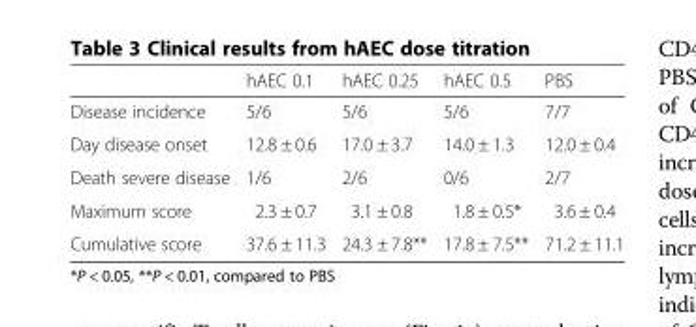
<table><thead><tr><td></td><td>hAEC 0.1</td><td>hAEC 0.25</td><td>hAEC 0.5</td><td>PBS</td></tr></thead><tbody><tr><td>Disease incidence</td><td>5/6</td><td>5/6</td><td>5/6</td><td>7/7</td></tr><tr><td>Day disease onset</td><td>12.8 ± 0.6</td><td>17.0 ± 3.7</td><td>14.0 ± 1.3</td><td>12.0 ± 0.4</td></tr><tr><td>Death severe disease</td><td>1/6</td><td>2/6</td><td>0/6</td><td>2/7</td></tr><tr><td>Maximum score</td><td>2.3 ± 0.7</td><td>3.1 ± 0.8</td><td>1.8 ± 0.5*</td><td>3.6 ± 0.4</td></tr><tr><td>Cumulative score</td><td>37.6 ± 11.3</td><td>24.3 ± 7.8**</td><td>17.8 ± 7.5**</td><td>71.2 ± 11.1</td></tr></tbody></table>